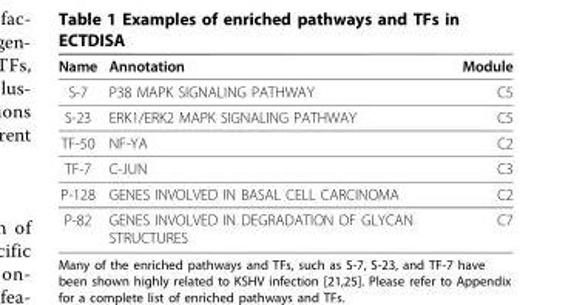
<table><thead><tr><td>Name</td><td>Annotation</td><td>Module</td></tr></thead><tbody><tr><td>S-7</td><td>P38 MAPK SIGNALING PATHWAY</td><td>C5</td></tr><tr><td>S-23</td><td>ERK1/ERK2 MAPK SIGNALING PATHWAY</td><td>C5</td></tr><tr><td>TF-50</td><td>NF-YA</td><td>C2</td></tr><tr><td>TF-7</td><td>C-JUN</td><td>C3</td></tr><tr><td>P-128</td><td>GENES INVOLVED IN BASAL CELL CARCINOMA</td><td>C2</td></tr><tr><td>P-82</td><td>GENES INVOLVED IN DEGRADATION OF GLYCAN STRUCTURES</td><td>C7</td></tr></tbody></table>